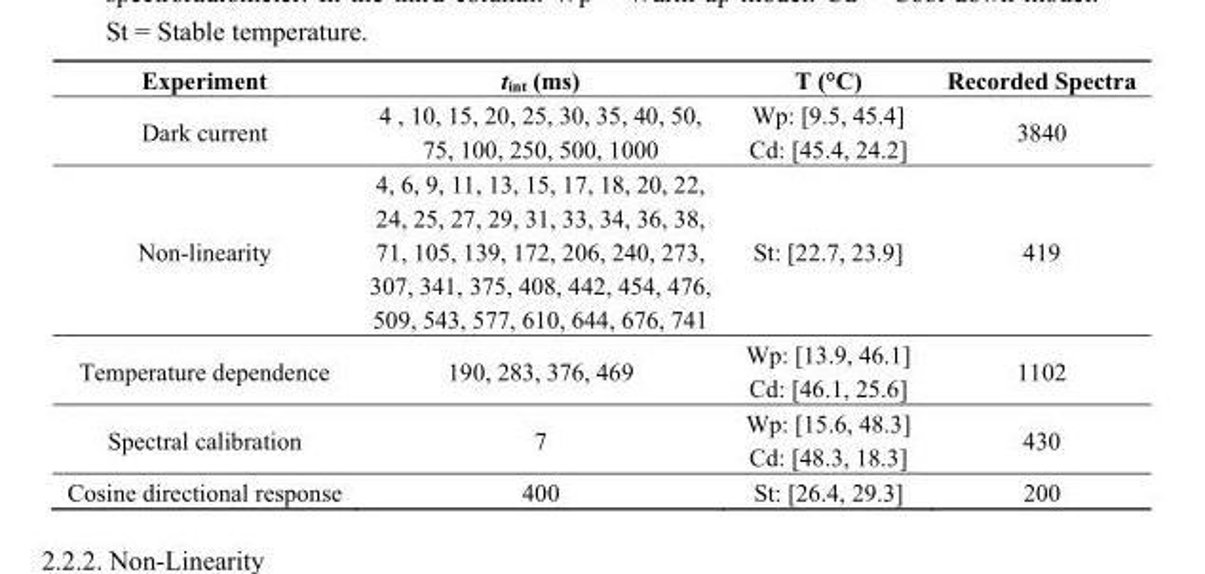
<table><thead><tr><td>Experiment</td><td>t<sub>int</sub> (ms)</td><td>T (°C)</td><td>Recorded Spectra</td></tr></thead><tbody><tr><td>Dark current</td><td>4 , 10, 15, 20, 25, 30, 35, 40, 50, 75, 100, 250, 500, 1000</td><td>Wp: [9.5, 45.4] Cd: [45.4, 24.2]</td><td>3840</td></tr><tr><td>Non-linearity</td><td>4, 6, 9, 11, 13, 15, 17, 18, 20, 22, 24, 25, 27, 29, 31, 33, 34, 36, 38, 71, 105, 139, 172, 206, 240, 273, 307, 341, 375, 408, 442, 454, 476, 509, 543, 577, 610, 644, 676, 741</td><td>St: [22.7, 23.9]</td><td>419</td></tr><tr><td>Temperature dependence</td><td>190, 283, 376, 469</td><td>Wp: [13.9, 46.1] Cd: [46.1, 25.6]</td><td>1102</td></tr><tr><td>Spectral calibration</td><td>7</td><td>Wp: [15.6, 48.3] Cd: [48.3, 18.3]</td><td>430</td></tr><tr><td>Cosine directional response</td><td>400</td><td>St: [26.4, 29.3]</td><td>200</td></tr></tbody></table>